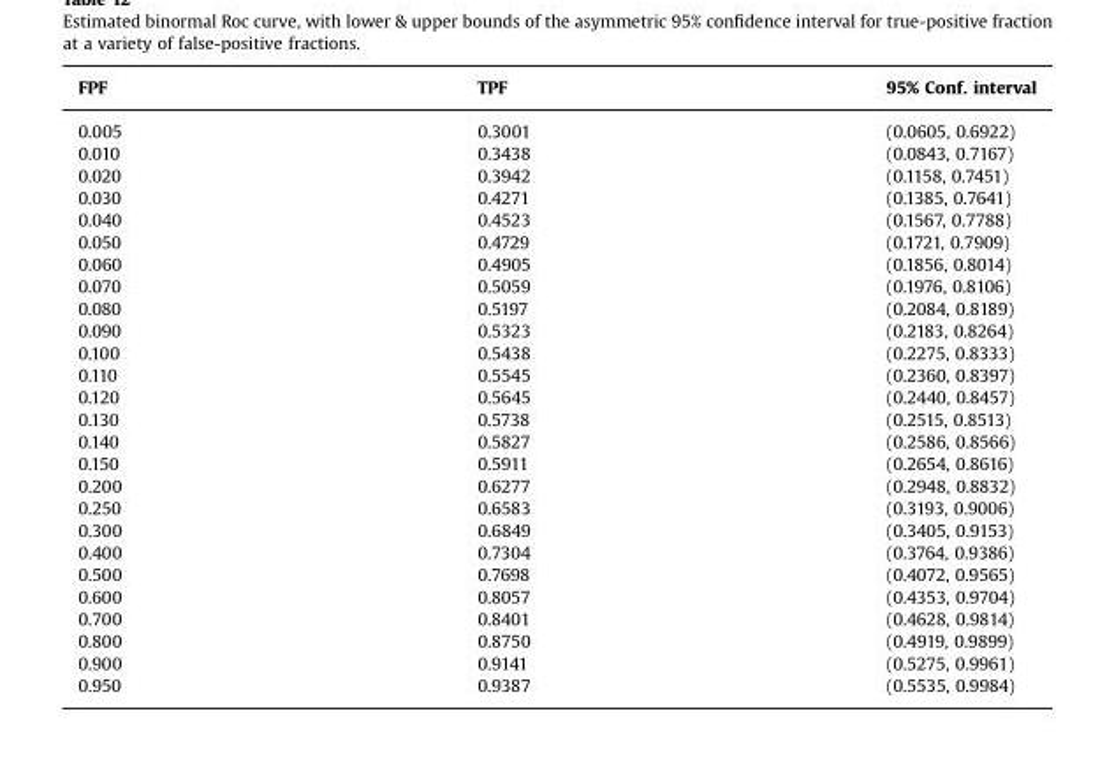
<table><thead><tr><td>FPF</td><td>TPF</td><td>95% Conf. interval</td></tr></thead><tbody><tr><td>0.005</td><td>0.3001</td><td>(0.0605, 0.6922)</td></tr><tr><td>0.010</td><td>0.3438</td><td>(0.0843, 0.7167)</td></tr><tr><td>0.020</td><td>0.3942</td><td>(0.1158, 0.7451)</td></tr><tr><td>0.030</td><td>0.4271</td><td>(0.1385, 0.7641)</td></tr><tr><td>0.040</td><td>0.4523</td><td>(0.1567, 0.7788)</td></tr><tr><td>0.050</td><td>0.4729</td><td>(0.1721, 0.7909)</td></tr><tr><td>0.060</td><td>0.4905</td><td>(0.1856, 0.8014)</td></tr><tr><td>0.070</td><td>0.5059</td><td>(0.1976, 0.8106)</td></tr><tr><td>0.080</td><td>0.5197</td><td>(0.2084, 0.8189)</td></tr><tr><td>0.090</td><td>0.5323</td><td>(0.2183, 0.8264)</td></tr><tr><td>0.100</td><td>0.5438</td><td>(0.2275, 0.8333)</td></tr><tr><td>0.110</td><td>0.5545</td><td>(0.2360, 0.8397)</td></tr><tr><td>0.120</td><td>0.5645</td><td>(0.2440, 0.8457)</td></tr><tr><td>0.130</td><td>0.5738</td><td>(0.2515, 0.8513)</td></tr><tr><td>0.140</td><td>0.5827</td><td>(0.2586, 0.8566)</td></tr><tr><td>0.150</td><td>0.5911</td><td>(0.2654, 0.8616)</td></tr><tr><td>0.200</td><td>0.6277</td><td>(0.2948, 0.8832)</td></tr><tr><td>0.250</td><td>0.6583</td><td>(0.3193, 0.9006)</td></tr><tr><td>0.300</td><td>0.6849</td><td>(0.3405, 0.9153)</td></tr><tr><td>0.400</td><td>0.7304</td><td>(0.3764, 0.9386)</td></tr><tr><td>0.500</td><td>0.7698</td><td>(0.4072, 0.9565)</td></tr><tr><td>0.600</td><td>0.8057</td><td>(0.4353, 0.9704)</td></tr><tr><td>0.700</td><td>0.8401</td><td>(0.4628, 0.9814)</td></tr><tr><td>0.800</td><td>0.8750</td><td>(0.4919, 0.9899)</td></tr><tr><td>0.900</td><td>0.9141</td><td>(0.5275, 0.9961)</td></tr><tr><td>0.950</td><td>0.9387</td><td>(0.5535, 0.9984)</td></tr></tbody></table>